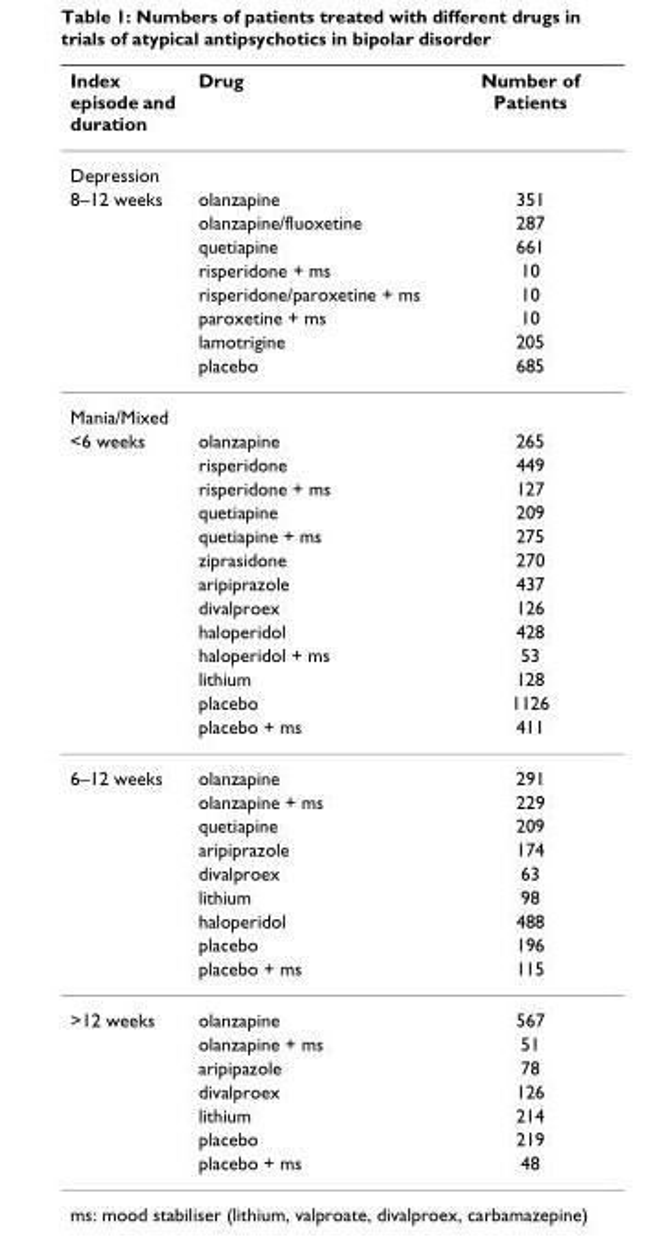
<table><thead><tr><td>Index episode and duration</td><td>Drug</td><td>Number of Patients</td></tr></thead><tbody><tr><td colspan="3">Depression</td></tr><tr><td rowspan="8">8–12 weeks</td><td>olanzapine</td><td>351</td></tr><tr><td>olanzapine/fluoxetine</td><td>287</td></tr><tr><td>quetiapine</td><td>661</td></tr><tr><td>risperidone + ms</td><td>10</td></tr><tr><td>risperidone/paroxetine + ms</td><td>10</td></tr><tr><td>paroxetine + ms</td><td>10</td></tr><tr><td>lamotrigine</td><td>205</td></tr><tr><td>placebo</td><td>685</td></tr><tr><td colspan="3">Mania/Mixed</td></tr><tr><td rowspan="13">&lt;6 weeks</td><td>olanzapine</td><td>265</td></tr><tr><td>risperidone</td><td>449</td></tr><tr><td>risperidone + ms</td><td>127</td></tr><tr><td>quetiapine</td><td>209</td></tr><tr><td>quetiapine + ms</td><td>275</td></tr><tr><td>ziprasidone</td><td>270</td></tr><tr><td>aripiprazole</td><td>437</td></tr><tr><td>divalproex</td><td>126</td></tr><tr><td>haloperidol</td><td>428</td></tr><tr><td>haloperidol + ms</td><td>53</td></tr><tr><td>lithium</td><td>128</td></tr><tr><td>placebo</td><td>1126</td></tr><tr><td>placebo + ms</td><td>411</td></tr><tr><td rowspan="9">6–12 weeks</td><td>olanzapine</td><td>291</td></tr><tr><td>olanzapine + ms</td><td>229</td></tr><tr><td>quetiapine</td><td>209</td></tr><tr><td>aripiprazole</td><td>174</td></tr><tr><td>divalproex</td><td>63</td></tr><tr><td>lithium</td><td>98</td></tr><tr><td>haloperidol</td><td>488</td></tr><tr><td>placebo</td><td>196</td></tr><tr><td>placebo + ms</td><td>115</td></tr><tr><td rowspan="7">&gt;12 weeks</td><td>olanzapine</td><td>567</td></tr><tr><td>olanzapine + ms</td><td>51</td></tr><tr><td>aripipazole</td><td>78</td></tr><tr><td>divalproex</td><td>126</td></tr><tr><td>lithium</td><td>214</td></tr><tr><td>placebo</td><td>219</td></tr><tr><td>placebo + ms</td><td>48</td></tr></tbody></table>